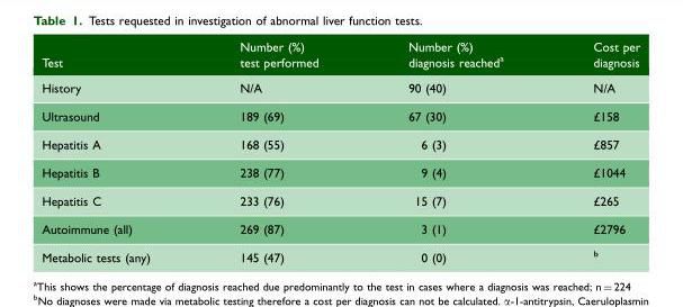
<table><thead><tr><td>Test</td><td>Number (%) test performed</td><td>Number (%) diagnosis reached<sup>a</sup></td><td>Cost per diagnosis</td></tr></thead><tbody><tr><td>History</td><td>N/A</td><td>90 (40)</td><td>N/A</td></tr><tr><td>Ultrasound</td><td>189 (69)</td><td>67 (30)</td><td>£158</td></tr><tr><td>Hepatitis A</td><td>168 (55)</td><td>6 (3)</td><td>£857</td></tr><tr><td>Hepatitis B</td><td>238 (77)</td><td>9 (4)</td><td>£1044</td></tr><tr><td>Hepatitis C</td><td>233 (76)</td><td>15 (7)</td><td>£265</td></tr><tr><td>Autoimmune (all)</td><td>269 (87)</td><td>3 (1)</td><td>£2796</td></tr><tr><td>Metabolic tests (any)</td><td>145 (47)</td><td>0 (0)</td><td><sup>b</sup></td></tr></tbody></table>